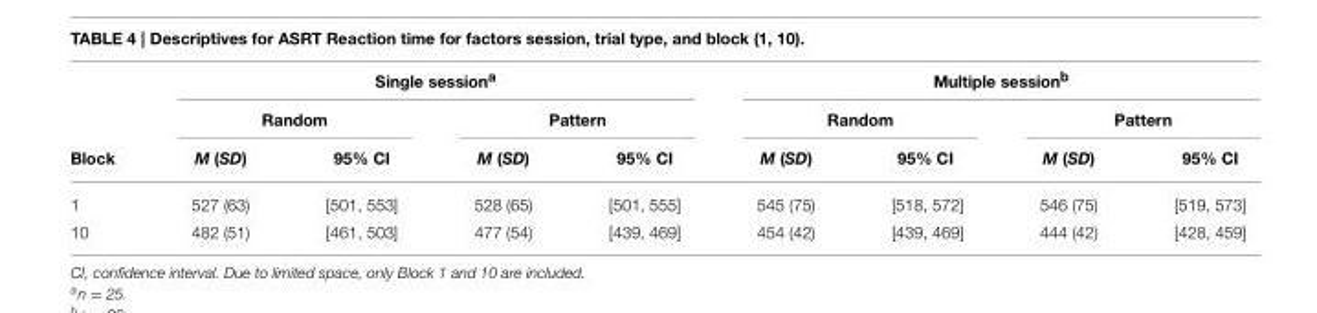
<table><thead><tr><td rowspan="3">Block</td><td colspan="4">Single session<sup>a</sup></td><td colspan="4">Multiple session<sup>b</sup></td></tr><tr><td colspan="2">Random</td><td colspan="2">Pattern</td><td colspan="2">Random</td><td colspan="2">Pattern</td></tr><tr><td>M (SD)</td><td>95% CI</td><td>M (SD)</td><td>95% CI</td><td>M (SD)</td><td>95% CI</td><td>M (SD)</td><td>95% CI</td></tr></thead><tbody><tr><td>1</td><td>527 (63)</td><td>[501, 553]</td><td>528 (65)</td><td>[501, 555]</td><td>545 (75)</td><td>[518, 572]</td><td>546 (75)</td><td>[519, 573]</td></tr><tr><td>10</td><td>482 (51)</td><td>[461, 503]</td><td>477 (54)</td><td>[439, 469]</td><td>454 (42)</td><td>[439, 469]</td><td>444 (42)</td><td>[428, 459]</td></tr></tbody></table>